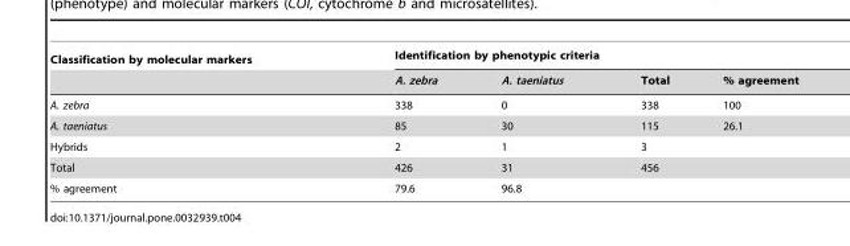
<table><thead><tr><td rowspan="2">Classification by molecular markers</td><td colspan="4">Identification by phenotypic criteria</td></tr><tr><td>A. zebra</td><td>A. taeniatus</td><td>Total</td><td>% agreement</td></tr></thead><tbody><tr><td>A. zebra</td><td>338</td><td>0</td><td>338</td><td>100</td></tr><tr><td>A. taeniatus</td><td>85</td><td>30</td><td>115</td><td>26.1</td></tr><tr><td>Hybrids</td><td>2</td><td>1</td><td>3</td><td></td></tr><tr><td>Total</td><td>426</td><td>31</td><td>456</td><td></td></tr><tr><td>% agreement</td><td>79.6</td><td>96.8</td><td></td><td></td></tr></tbody></table>